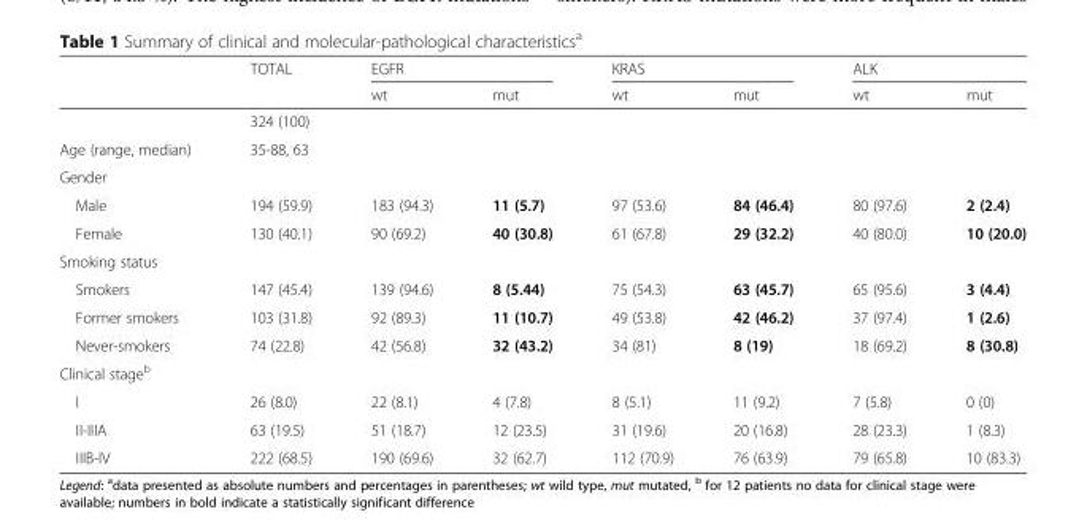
<table><thead><tr><td rowspan="2"></td><td rowspan="2">TOTAL</td><td colspan="2">EGFR</td><td colspan="2">KRAS</td><td colspan="2">ALK</td></tr><tr><td>wt</td><td>mut</td><td>wt</td><td>mut</td><td>wt</td><td>mut</td></tr></thead><tbody><tr><td></td><td>324 (100)</td><td></td><td></td><td></td><td></td><td></td><td></td></tr><tr><td>Age (range, median)</td><td>35-88, 63</td><td></td><td></td><td></td><td></td><td></td><td></td></tr><tr><td colspan="8">Gender</td></tr><tr><td>Male</td><td>194 (59.9)</td><td>183 (94.3)</td><td>11 (5.7)</td><td>97 (53.6)</td><td>84 (46.4)</td><td>80 (97.6)</td><td>2 (2.4)</td></tr><tr><td>Female</td><td>130 (40.1)</td><td>90 (69.2)</td><td>40 (30.8)</td><td>61 (67.8)</td><td>29 (32.2)</td><td>40 (80.0)</td><td>10 (20.0)</td></tr><tr><td colspan="8">Smoking status</td></tr><tr><td>Smokers</td><td>147 (45.4)</td><td>139 (94.6)</td><td>8 (5.44)</td><td>75 (54.3)</td><td>63 (45.7)</td><td>65 (95.6)</td><td>3 (4.4)</td></tr><tr><td>Former smokers</td><td>103 (31.8)</td><td>92 (89.3)</td><td>11 (10.7)</td><td>49 (53.8)</td><td>42 (46.2)</td><td>37 (97.4)</td><td>1 (2.6)</td></tr><tr><td>Never-smokers</td><td>74 (22.8)</td><td>42 (56.8)</td><td>32 (43.2)</td><td>34 (81)</td><td>8 (19)</td><td>18 (69.2)</td><td>8 (30.8)</td></tr><tr><td colspan="8">Clinical stage<sup>b</sup></td></tr><tr><td>I</td><td>26 (8.0)</td><td>22 (8.1)</td><td>4 (7.8)</td><td>8 (5.1)</td><td>11 (9.2)</td><td>7 (5.8)</td><td>0 (0)</td></tr><tr><td>II-IIIA</td><td>63 (19.5)</td><td>51 (18.7)</td><td>12 (23.5)</td><td>31 (19.6)</td><td>20 (16.8)</td><td>28 (23.3)</td><td>1 (8.3)</td></tr><tr><td>IIIB-IV</td><td>222 (68.5)</td><td>190 (69.6)</td><td>32 (62.7)</td><td>112 (70.9)</td><td>76 (63.9)</td><td>79 (65.8)</td><td>10 (83.3)</td></tr></tbody></table>